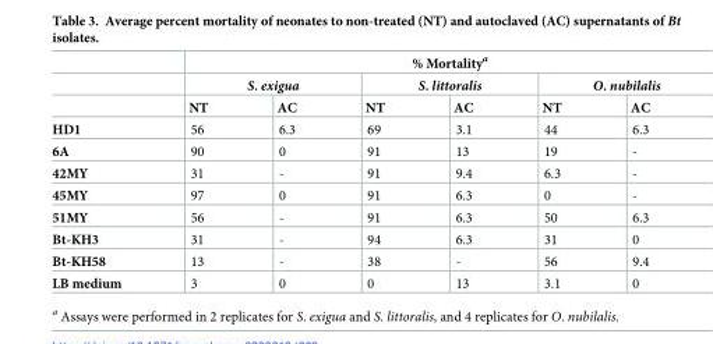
<table><thead><tr><td rowspan="3"></td><td colspan="6">% Mortality<sup>a</sup></td></tr><tr><td colspan="2">S. exigua</td><td colspan="2">S. littoralis</td><td colspan="2">O. nubilalis</td></tr><tr><td>NT</td><td>AC</td><td>NT</td><td>AC</td><td>NT</td><td>AC</td></tr></thead><tbody><tr><td>HD1</td><td>56</td><td>6.3</td><td>69</td><td>3.1</td><td>44</td><td>6.3</td></tr><tr><td>6A</td><td>90</td><td>0</td><td>91</td><td>13</td><td>19</td><td>-</td></tr><tr><td>42MY</td><td>31</td><td>-</td><td>91</td><td>9.4</td><td>6.3</td><td>-</td></tr><tr><td>45MY</td><td>97</td><td>0</td><td>91</td><td>6.3</td><td>0</td><td>-</td></tr><tr><td>51MY</td><td>56</td><td>-</td><td>91</td><td>6.3</td><td>50</td><td>6.3</td></tr><tr><td>Bt-KH3</td><td>31</td><td>-</td><td>94</td><td>6.3</td><td>31</td><td>0</td></tr><tr><td>Bt-KH58</td><td>13</td><td>-</td><td>38</td><td>-</td><td>56</td><td>9.4</td></tr><tr><td>LB medium</td><td>3</td><td>0</td><td>0</td><td>13</td><td>3.1</td><td>0</td></tr></tbody></table>